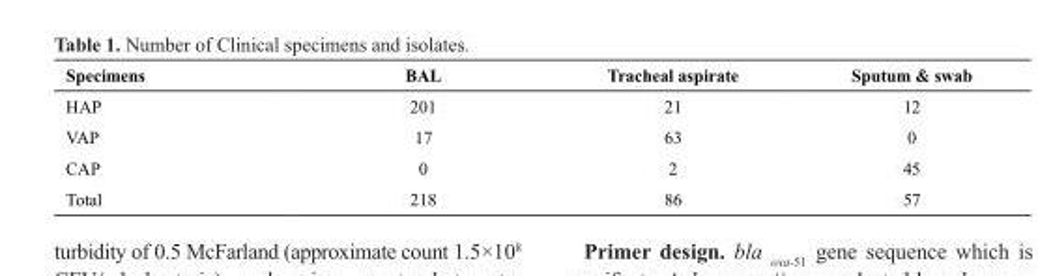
<table><thead><tr><td>Specimens</td><td>BAL</td><td>Tracheal aspirate</td><td>Sputum &amp; swab</td></tr></thead><tbody><tr><td>HAP</td><td>201</td><td>21</td><td>12</td></tr><tr><td>VAP</td><td>17</td><td>63</td><td>0</td></tr><tr><td>CAP</td><td>0</td><td>2</td><td>45</td></tr><tr><td>Total</td><td>218</td><td>86</td><td>57</td></tr></tbody></table>